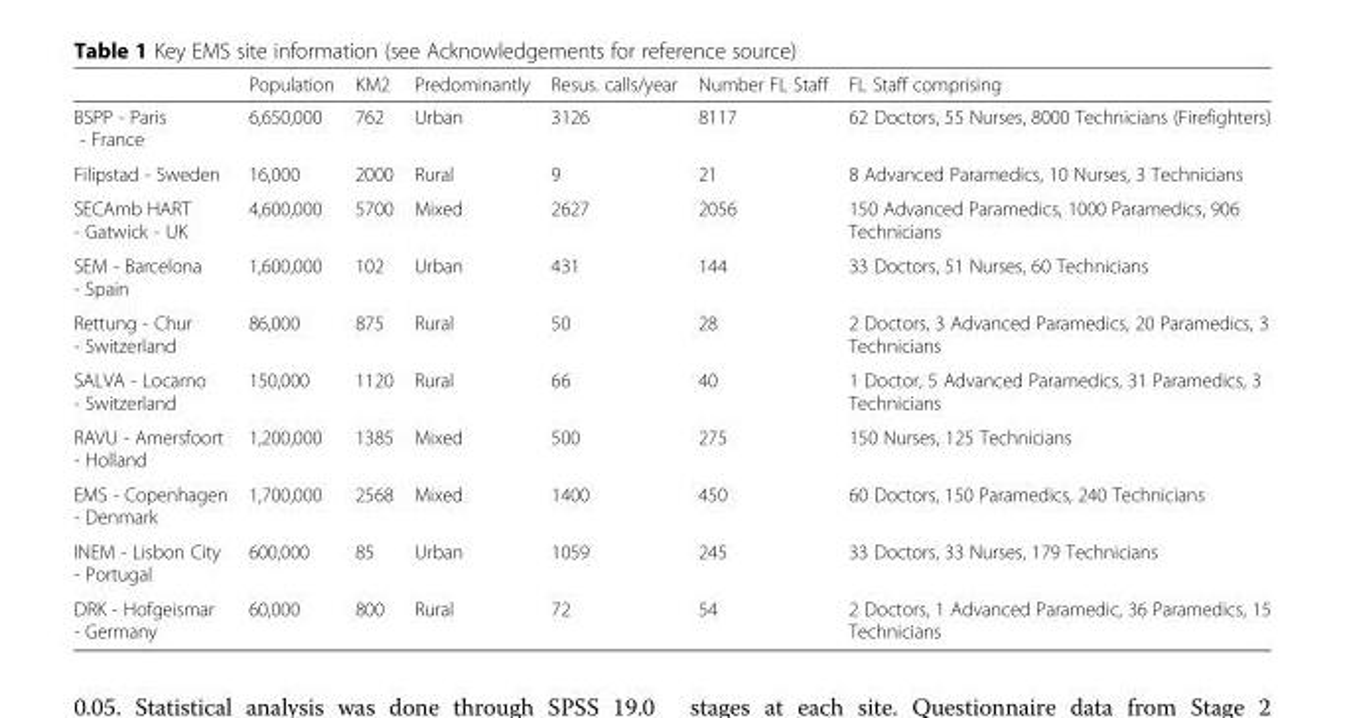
<table><thead><tr><td></td><td>Population</td><td>KM2</td><td>Predominantly</td><td>Resus. calls/year</td><td>Number FL Staff</td><td>FL Staff comprising</td></tr></thead><tbody><tr><td>BSPP - Paris - France</td><td>6,650,000</td><td>762</td><td>Urban</td><td>3126</td><td>8117</td><td>62 Doctors, 55 Nurses, 8000 Technicians (Firefighters)</td></tr><tr><td>Filipstad - Sweden</td><td>16,000</td><td>2000</td><td>Rural</td><td>9</td><td>21</td><td>8 Advanced Paramedics, 10 Nurses, 3 Technicians</td></tr><tr><td>SECAmb HART - Gatwick - UK</td><td>4,600,000</td><td>5700</td><td>Mixed</td><td>2627</td><td>2056</td><td>150 Advanced Paramedics, 1000 Paramedics, 906 Technicians</td></tr><tr><td>SEM - Barcelona - Spain</td><td>1,600,000</td><td>102</td><td>Urban</td><td>431</td><td>144</td><td>33 Doctors, 51 Nurses, 60 Technicians</td></tr><tr><td>Rettung - Chur - Switzerland</td><td>86,000</td><td>875</td><td>Rural</td><td>50</td><td>28</td><td>2 Doctors, 3 Advanced Paramedics, 20 Paramedics, 3 Technicians</td></tr><tr><td>SALVA - Locarno - Switzerland</td><td>150,000</td><td>1120</td><td>Rural</td><td>66</td><td>40</td><td>1 Doctor, 5 Advanced Paramedics, 31 Paramedics, 3 Technicians</td></tr><tr><td>RAVU - Amersfoort - Holland</td><td>1,200,000</td><td>1385</td><td>Mixed</td><td>500</td><td>275</td><td>150 Nurses, 125 Technicians</td></tr><tr><td>EMS - Copenhagen - Denmark</td><td>1,700,000</td><td>2568</td><td>Mixed</td><td>1400</td><td>450</td><td>60 Doctors, 150 Paramedics, 240 Technicians</td></tr><tr><td>INEM - Lisbon City - Portugal</td><td>600,000</td><td>85</td><td>Urban</td><td>1059</td><td>245</td><td>33 Doctors, 33 Nurses, 179 Technicians</td></tr><tr><td>DRK - Hofgeismar - Germany</td><td>60,000</td><td>800</td><td>Rural</td><td>72</td><td>54</td><td>2 Doctors, 1 Advanced Paramedic, 36 Paramedics, 15 Technicians</td></tr></tbody></table>